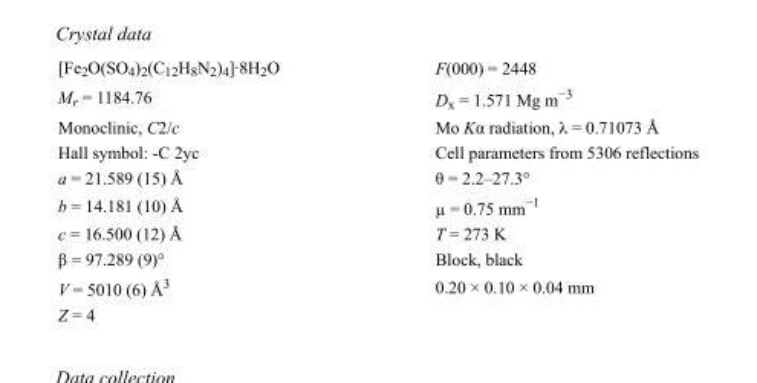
<table><tbody><tr><td>[Fe<sub>2</sub>O(SO<sub>4</sub>)<sub>2</sub>(C<sub>12</sub>H<sub>8</sub>N<sub>2</sub>)<sub>4</sub>]·8H<sub>2</sub>O</td><td>F(000) = 2448</td></tr><tr><td>M<sub>r</sub> = 1184.76</td><td>D<sub>x</sub> = 1.571 Mg m<sup>−3</sup></td></tr><tr><td>Monoclinic, C2/c</td><td>Mo Kα radiation, λ = 0.71073 Å</td></tr><tr><td>Hall symbol: -C 2yc</td><td>Cell parameters from 5306 reflections</td></tr><tr><td>a = 21.589 (15) Å</td><td>θ = 2.2–27.3°</td></tr><tr><td>b = 14.181 (10) Å</td><td>µ = 0.75 mm<sup>−1</sup></td></tr><tr><td>c = 16.500 (12) Å</td><td>T = 273 K</td></tr><tr><td>β = 97.289 (9)°</td><td>Block, black</td></tr><tr><td>V = 5010 (6) Å<sup>3</sup></td><td>0.20 × 0.10 × 0.04 mm</td></tr><tr><td>Z = 4</td><td></td></tr></tbody></table>